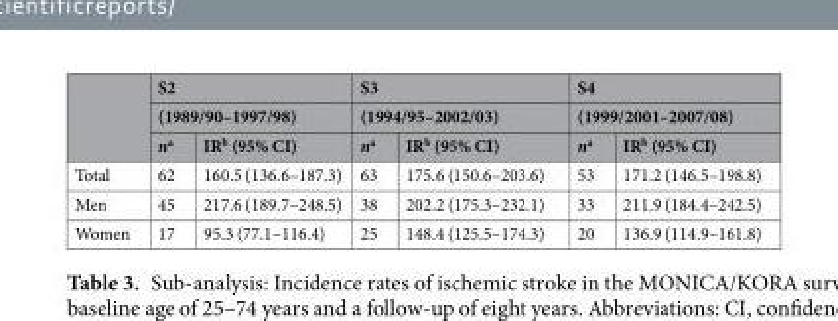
<table><thead><tr><td rowspan="3"></td><td rowspan="2" colspan="2">S2 (1989/90–1997/98)</td><td rowspan="2" colspan="2">S3 (1994/95–2002/03)</td><td rowspan="2" colspan="2">S4 (1999/2001–2007/08)</td></tr><tr></tr><tr><td>n<sup>a</sup></td><td>IR<sup>b</sup> (95% CI)</td><td>n<sup>a</sup></td><td>IR<sup>b</sup> (95% CI)</td><td>n<sup>a</sup></td><td>IR<sup>b</sup> (95% CI)</td></tr></thead><tbody><tr><td>Total</td><td>62</td><td>160.5 (136.6–187.3)</td><td>63</td><td>175.6 (150.6–203.6)</td><td>53</td><td>171.2 (146.5–198.8)</td></tr><tr><td>Men</td><td>45</td><td>217.6 (189.7–248.5)</td><td>38</td><td>202.2 (175.3–232.1)</td><td>33</td><td>211.9 (184.4–242.5)</td></tr><tr><td>Women</td><td>17</td><td>95.3 (77.1–116.4)</td><td>25</td><td>148.4 (125.5–174.3)</td><td>20</td><td>136.9 (114.9–161.8)</td></tr></tbody></table>